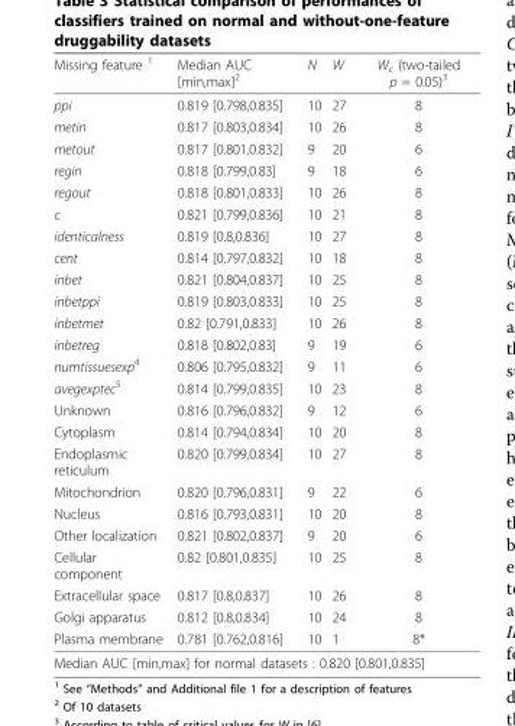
<table><thead><tr><td>Missing feature <sup>1</sup></td><td>Median AUC [min,max]<sup>2</sup></td><td>N</td><td>W</td><td>W<sub>c</sub> (two-tailed p = 0.05)<sup>3</sup></td></tr></thead><tbody><tr><td>ppi</td><td>0.819 [0.798,0.835]</td><td>10</td><td>27</td><td>8</td></tr><tr><td>metin</td><td>0.817 [0.803,0.834]</td><td>10</td><td>26</td><td>8</td></tr><tr><td>metout</td><td>0.817 [0.801,0.832]</td><td>9</td><td>20</td><td>6</td></tr><tr><td>regin</td><td>0.818 [0.799,0.83]</td><td>9</td><td>18</td><td>6</td></tr><tr><td>regout</td><td>0.818 [0.801,0.833]</td><td>10</td><td>26</td><td>8</td></tr><tr><td>c</td><td>0.821 [0.799,0.836]</td><td>10</td><td>21</td><td>8</td></tr><tr><td>identicalness</td><td>0.819 [0.8,0.836]</td><td>10</td><td>27</td><td>8</td></tr><tr><td>cent</td><td>0.814 [0.797,0.832]</td><td>10</td><td>18</td><td>8</td></tr><tr><td>inbet</td><td>0.821 [0.804,0.837]</td><td>10</td><td>25</td><td>8</td></tr><tr><td>inbetppi</td><td>0.819 [0.803,0.833]</td><td>10</td><td>25</td><td>8</td></tr><tr><td>inbetmet</td><td>0.82 [0.791,0.833]</td><td>10</td><td>26</td><td>8</td></tr><tr><td>inbetreg</td><td>0.818 [0.802,0.83]</td><td>9</td><td>19</td><td>6</td></tr><tr><td>numtissuesexp<sup>4</sup></td><td>0.806 [0.795,0.832]</td><td>9</td><td>11</td><td>6</td></tr><tr><td>avegexptec<sup>5</sup></td><td>0.814 [0.799,0.835]</td><td>10</td><td>23</td><td>8</td></tr><tr><td>Unknown</td><td>0.816 [0.796,0.832]</td><td>9</td><td>12</td><td>6</td></tr><tr><td>Cytoplasm</td><td>0.814 [0.794,0.834]</td><td>10</td><td>20</td><td>8</td></tr><tr><td>Endoplasmic reticulum</td><td>0.820 [0.799,0.834]</td><td>10</td><td>27</td><td>8</td></tr><tr><td>Mitochondrion</td><td>0.820 [0.796,0.831]</td><td>9</td><td>22</td><td>6</td></tr><tr><td>Nucleus</td><td>0.816 [0.793,0.831]</td><td>10</td><td>20</td><td>8</td></tr><tr><td>Other localization</td><td>0.821 [0.802,0.837]</td><td>9</td><td>20</td><td>6</td></tr><tr><td>Cellular component</td><td>0.82 [0.801,0.835]</td><td>10</td><td>25</td><td>8</td></tr><tr><td>Extracellular space</td><td>0.817 [0.8,0.837]</td><td>10</td><td>26</td><td>8</td></tr><tr><td>Golgi apparatus</td><td>0.812 [0.8,0.834]</td><td>10</td><td>24</td><td>8</td></tr><tr><td>Plasma membrane</td><td>0.781 [0.762,0.816]</td><td>10</td><td>1</td><td>8*</td></tr><tr><td colspan="5">Median AUC [min,max] for normal datasets : 0.820 [0.801,0.835]</td></tr></tbody></table>